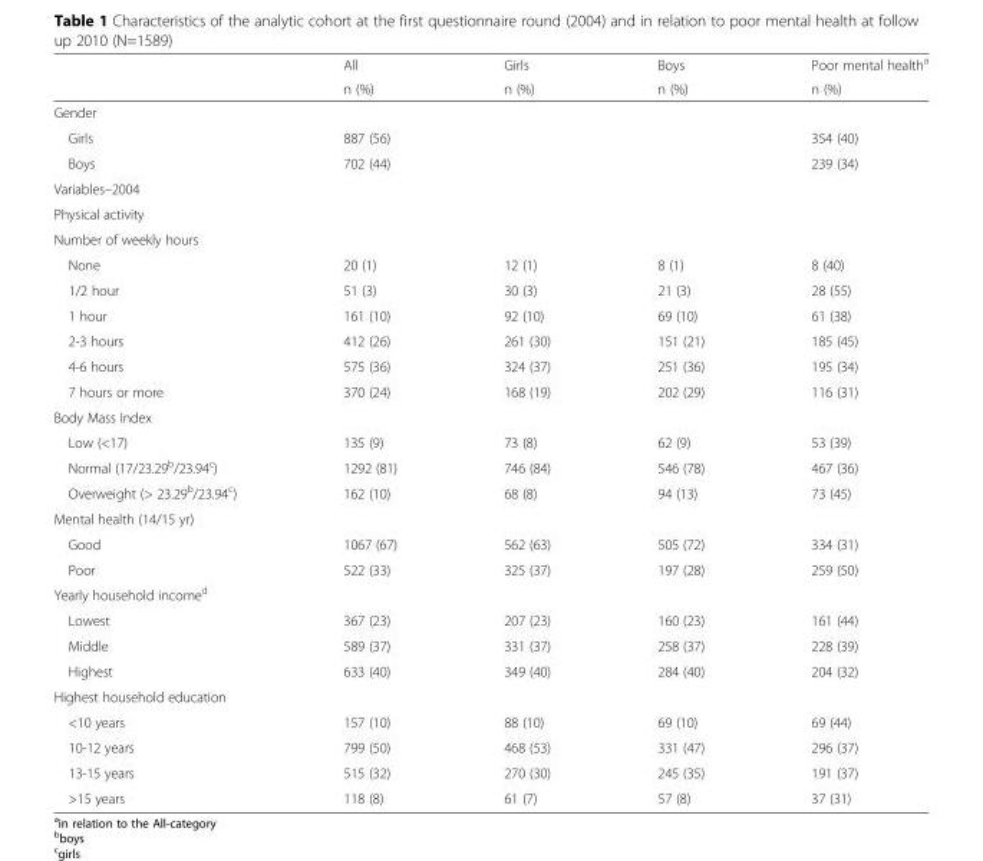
<table><thead><tr><td rowspan="2"></td><td rowspan="2">All n (%)</td><td rowspan="2">Girls n (%)</td><td rowspan="2">Boys n (%)</td><td rowspan="2">Poor mental health<sup>a</sup> n (%)</td></tr><tr></tr></thead><tbody><tr><td colspan="5">Gender</td></tr><tr><td>Girls</td><td colspan="3">887 (56)</td><td>354 (40)</td></tr><tr><td>Boys</td><td colspan="3">702 (44)</td><td>239 (34)</td></tr><tr><td colspan="5">Variables–2004</td></tr><tr><td colspan="5">Physical activity</td></tr><tr><td colspan="5">Number of weekly hours</td></tr><tr><td>None</td><td>20 (1)</td><td>12 (1)</td><td>8 (1)</td><td>8 (40)</td></tr><tr><td>1/2 hour</td><td>51 (3)</td><td>30 (3)</td><td>21 (3)</td><td>28 (55)</td></tr><tr><td>1 hour</td><td>161 (10)</td><td>92 (10)</td><td>69 (10)</td><td>61 (38)</td></tr><tr><td>2-3 hours</td><td>412 (26)</td><td>261 (30)</td><td>151 (21)</td><td>185 (45)</td></tr><tr><td>4-6 hours</td><td>575 (36)</td><td>324 (37)</td><td>251 (36)</td><td>195 (34)</td></tr><tr><td>7 hours or more</td><td>370 (24)</td><td>168 (19)</td><td>202 (29)</td><td>116 (31)</td></tr><tr><td colspan="5">Body Mass Index</td></tr><tr><td>Low (&lt;17)</td><td>135 (9)</td><td>73 (8)</td><td>62 (9)</td><td>53 (39)</td></tr><tr><td>Normal (17/23.29<sup>b</sup>/23.94<sup>c</sup>)</td><td>1292 (81)</td><td>746 (84)</td><td>546 (78)</td><td>467 (36)</td></tr><tr><td>Overweight (&gt; 23.29<sup>b</sup>/23.94<sup>c</sup>)</td><td>162 (10)</td><td>68 (8)</td><td>94 (13)</td><td>73 (45)</td></tr><tr><td colspan="5">Mental health (14/15 yr)</td></tr><tr><td>Good</td><td>1067 (67)</td><td>562 (63)</td><td>505 (72)</td><td>334 (31)</td></tr><tr><td>Poor</td><td>522 (33)</td><td>325 (37)</td><td>197 (28)</td><td>259 (50)</td></tr><tr><td colspan="5">Yearly household income<sup>d</sup></td></tr><tr><td>Lowest</td><td>367 (23)</td><td>207 (23)</td><td>160 (23)</td><td>161 (44)</td></tr><tr><td>Middle</td><td>589 (37)</td><td>331 (37)</td><td>258 (37)</td><td>228 (39)</td></tr><tr><td>Highest</td><td>633 (40)</td><td>349 (40)</td><td>284 (40)</td><td>204 (32)</td></tr><tr><td colspan="5">Highest household education</td></tr><tr><td>&lt;10 years</td><td>157 (10)</td><td>88 (10)</td><td>69 (10)</td><td>69 (44)</td></tr><tr><td>10-12 years</td><td>799 (50)</td><td>468 (53)</td><td>331 (47)</td><td>296 (37)</td></tr><tr><td>13-15 years</td><td>515 (32)</td><td>270 (30)</td><td>245 (35)</td><td>191 (37)</td></tr><tr><td>&gt;15 years</td><td>118 (8)</td><td>61 (7)</td><td>57 (8)</td><td>37 (31)</td></tr></tbody></table>